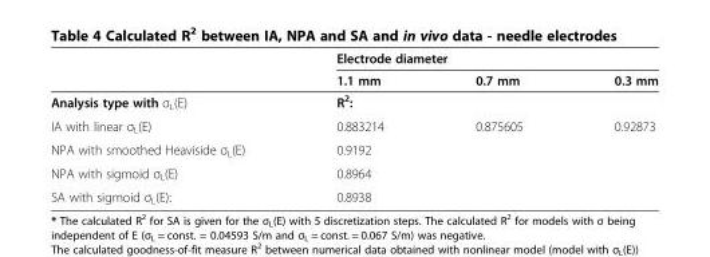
<table><thead><tr><td rowspan="2"></td><td colspan="3">Electrode diameter</td></tr><tr><td>1.1 mm</td><td>0.7 mm</td><td>0.3 mm</td></tr></thead><tbody><tr><td>Analysis type with σ<sub>L</sub>(E)</td><td colspan="3">R<sup>2</sup>:</td></tr><tr><td>IA with linear σ<sub>L</sub>(E)</td><td>0.883214</td><td>0.875605</td><td>0.92873</td></tr><tr><td>NPA with smoothed Heaviside σ<sub>L</sub>(E)</td><td>0.9192</td><td></td><td></td></tr><tr><td>NPA with sigmoid σ<sub>L</sub>(E)</td><td>0.8964</td><td></td><td></td></tr><tr><td>SA with sigmoid σ<sub>L</sub>(E):</td><td>0.8938</td><td></td><td></td></tr></tbody></table>